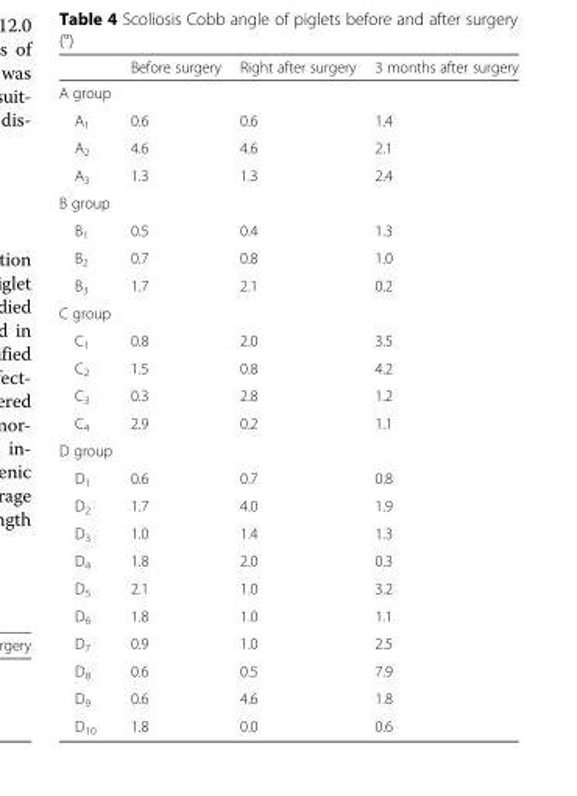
<table><thead><tr><td></td><td>Before surgery</td><td>Right after surgery</td><td>3 months after surgery</td></tr></thead><tbody><tr><td colspan="4">A group</td></tr><tr><td>A<sub>1</sub></td><td>0.6</td><td>0.6</td><td>1.4</td></tr><tr><td>A<sub>2</sub></td><td>4.6</td><td>4.6</td><td>2.1</td></tr><tr><td>A<sub>3</sub></td><td>1.3</td><td>1.3</td><td>2.4</td></tr><tr><td colspan="4">B group</td></tr><tr><td>B<sub>1</sub></td><td>0.5</td><td>0.4</td><td>1.3</td></tr><tr><td>B<sub>2</sub></td><td>0.7</td><td>0.8</td><td>1.0</td></tr><tr><td>B<sub>3</sub></td><td>1.7</td><td>2.1</td><td>0.2</td></tr><tr><td colspan="4">C group</td></tr><tr><td>C<sub>1</sub></td><td>0.8</td><td>2.0</td><td>3.5</td></tr><tr><td>C<sub>2</sub></td><td>1.5</td><td>0.8</td><td>4.2</td></tr><tr><td>C<sub>3</sub></td><td>0.3</td><td>2.8</td><td>1.2</td></tr><tr><td>C<sub>4</sub></td><td>2.9</td><td>0.2</td><td>1.1</td></tr><tr><td colspan="4">D group</td></tr><tr><td>D<sub>1</sub></td><td>0.6</td><td>0.7</td><td>0.8</td></tr><tr><td>D<sub>2</sub></td><td>1.7</td><td>4.0</td><td>1.9</td></tr><tr><td>D<sub>3</sub></td><td>1.0</td><td>1.4</td><td>1.3</td></tr><tr><td>D<sub>4</sub></td><td>1.8</td><td>2.0</td><td>0.3</td></tr><tr><td>D<sub>5</sub></td><td>2.1</td><td>1.0</td><td>3.2</td></tr><tr><td>D<sub>6</sub></td><td>1.8</td><td>1.0</td><td>1.1</td></tr><tr><td>D<sub>7</sub></td><td>0.9</td><td>1.0</td><td>2.5</td></tr><tr><td>D<sub>8</sub></td><td>0.6</td><td>0.5</td><td>7.9</td></tr><tr><td>D<sub>9</sub></td><td>0.6</td><td>4.6</td><td>1.8</td></tr><tr><td>D<sub>10</sub></td><td>1.8</td><td>0.0</td><td>0.6</td></tr></tbody></table>